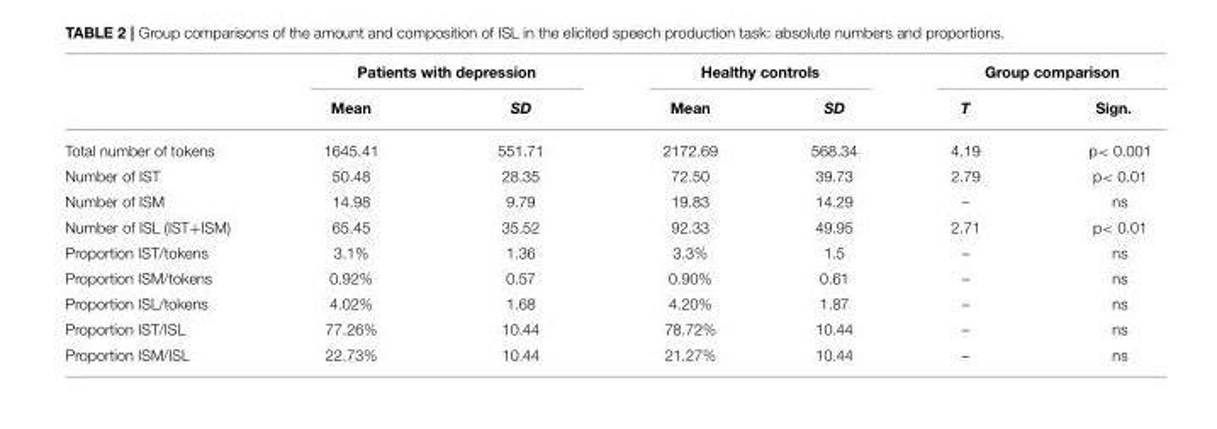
<table><thead><tr><td rowspan="2"></td><td colspan="2">Patients with depression</td><td colspan="2">Healthy controls</td><td colspan="2">Group comparison</td></tr><tr><td>Mean</td><td>SD</td><td>Mean</td><td>SD</td><td>T</td><td>Sign.</td></tr></thead><tbody><tr><td>Total number of tokens</td><td>1645.41</td><td>551.71</td><td>2172.69</td><td>568.34</td><td>4.19</td><td>p&lt; 0.001</td></tr><tr><td>Number of IST</td><td>50.48</td><td>28.35</td><td>72.50</td><td>39.73</td><td>2.79</td><td>p&lt; 0.01</td></tr><tr><td>Number of ISM</td><td>14.98</td><td>9.79</td><td>19.83</td><td>14.29</td><td>–</td><td>ns</td></tr><tr><td>Number of ISL (IST+ISM)</td><td>65.45</td><td>35.52</td><td>92.33</td><td>49.95</td><td>2.71</td><td>p&lt; 0.01</td></tr><tr><td>Proportion IST/tokens</td><td>3.1%</td><td>1.36</td><td>3.3%</td><td>1.5</td><td>–</td><td>ns</td></tr><tr><td>Proportion ISM/tokens</td><td>0.92%</td><td>0.57</td><td>0.90%</td><td>0.61</td><td>–</td><td>ns</td></tr><tr><td>Proportion ISL/tokens</td><td>4.02%</td><td>1.68</td><td>4.20%</td><td>1.87</td><td>–</td><td>ns</td></tr><tr><td>Proportion IST/ISL</td><td>77.26%</td><td>10.44</td><td>78.72%</td><td>10.44</td><td>–</td><td>ns</td></tr><tr><td>Proportion ISM/ISL</td><td>22.73%</td><td>10.44</td><td>21.27%</td><td>10.44</td><td>–</td><td>ns</td></tr></tbody></table>